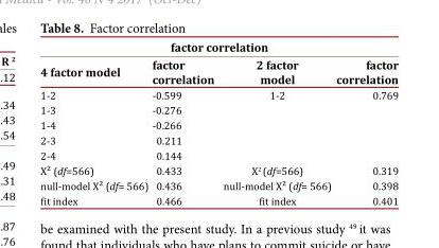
<table><thead><tr><td colspan="4">factor correlation</td></tr><tr><td>4 factor model</td><td>factor correlation</td><td>2 factor model</td><td>factor correlation</td></tr></thead><tbody><tr><td>1-2</td><td>-0.599</td><td>1-2</td><td>0.769</td></tr><tr><td>1-3</td><td>-0.276</td><td></td><td></td></tr><tr><td>1-4</td><td>-0.266</td><td></td><td></td></tr><tr><td>2-3</td><td>0.211</td><td></td><td></td></tr><tr><td>2-4</td><td>0.144</td><td></td><td></td></tr><tr><td>X² (df=566)</td><td>0.433</td><td>X<sup>2</sup> (df=566)</td><td>0.319</td></tr><tr><td>null-model X² (df= 566)</td><td>0.436</td><td>null-model X² (df= 566)</td><td>0.398</td></tr><tr><td>fit index</td><td>0.466</td><td>fit index</td><td>0.401</td></tr></tbody></table>